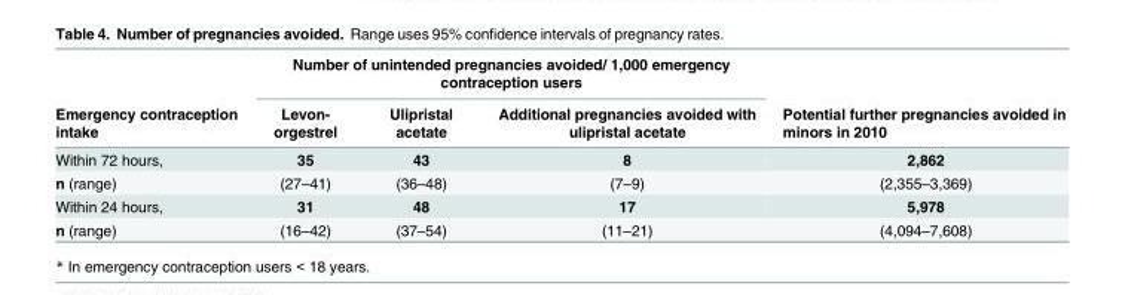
<table><thead><tr><td rowspan="2">Emergency contraception intake</td><td colspan="3">Number of unintended pregnancies avoided/ 1,000 emergency contraception users</td><td rowspan="2">Potential further pregnancies avoided in minors in 2010</td></tr><tr><td>Levon- orgestrel</td><td>Ulipristal acetate</td><td>Additional pregnancies avoided with ulipristal acetate</td></tr></thead><tbody><tr><td>Within 72 hours,</td><td>35</td><td>43</td><td>8</td><td>2,862</td></tr><tr><td>n (range)</td><td>(27–41)</td><td>(36–48)</td><td>(7–9)</td><td>(2,355–3,369)</td></tr><tr><td>Within 24 hours,</td><td>31</td><td>48</td><td>17</td><td>5,978</td></tr><tr><td>n (range)</td><td>(16–42)</td><td>(37–54)</td><td>(11–21)</td><td>(4,094–7,608)</td></tr></tbody></table>